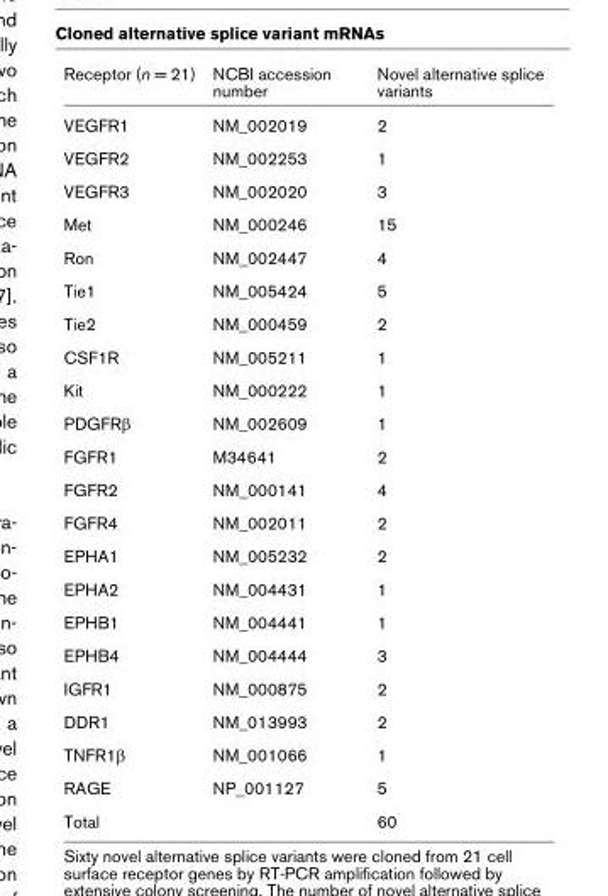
<table><thead><tr><td>Receptor (n = 21)</td><td>NCBI accession number</td><td>Novel alternative splice variants</td></tr></thead><tbody><tr><td>VEGFR1</td><td>NM_002019</td><td>2</td></tr><tr><td>VEGFR2</td><td>NM_002253</td><td>1</td></tr><tr><td>VEGFR3</td><td>NM_002020</td><td>3</td></tr><tr><td>Met</td><td>NM_000246</td><td>15</td></tr><tr><td>Ron</td><td>NM_002447</td><td>4</td></tr><tr><td>Tie1</td><td>NM_005424</td><td>5</td></tr><tr><td>Tie2</td><td>NM_000459</td><td>2</td></tr><tr><td>CSF1R</td><td>NM_005211</td><td>1</td></tr><tr><td>Kit</td><td>NM_000222</td><td>1</td></tr><tr><td>PDGFRβ</td><td>NM_002609</td><td>1</td></tr><tr><td>FGFR1</td><td>M34641</td><td>2</td></tr><tr><td>FGFR2</td><td>NM_000141</td><td>4</td></tr><tr><td>FGFR4</td><td>NM_002011</td><td>2</td></tr><tr><td>EPHA1</td><td>NM_005232</td><td>2</td></tr><tr><td>EPHA2</td><td>NM_004431</td><td>1</td></tr><tr><td>EPHB1</td><td>NM_004441</td><td>1</td></tr><tr><td>EPHB4</td><td>NM_004444</td><td>3</td></tr><tr><td>IGFR1</td><td>NM_000875</td><td>2</td></tr><tr><td>DDR1</td><td>NM_013993</td><td>2</td></tr><tr><td>TNFR1β</td><td>NM_001066</td><td>1</td></tr><tr><td>RAGE</td><td>NP_001127</td><td>5</td></tr><tr><td>Total</td><td></td><td>60</td></tr></tbody></table>